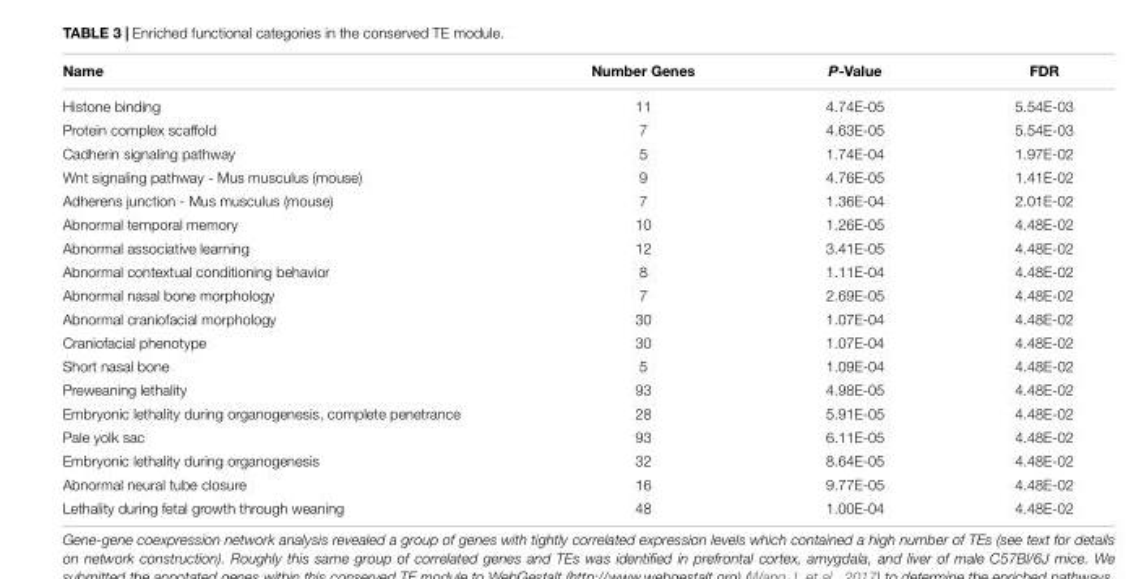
<table><thead><tr><td>Name</td><td>Number Genes</td><td>P-Value</td><td>FDR</td></tr></thead><tbody><tr><td>Histone binding</td><td>11</td><td>4.74E-05</td><td>5.54E-03</td></tr><tr><td>Protein complex scaffold</td><td>7</td><td>4.63E-05</td><td>5.54E-03</td></tr><tr><td>Cadherin signaling pathway</td><td>5</td><td>1.74E-04</td><td>1.97E-02</td></tr><tr><td>Wnt signaling pathway - Mus musculus (mouse)</td><td>9</td><td>4.76E-05</td><td>1.41E-02</td></tr><tr><td>Adherens junction - Mus musculus (mouse)</td><td>7</td><td>1.36E-04</td><td>2.01E-02</td></tr><tr><td>Abnormal temporal memory</td><td>10</td><td>1.26E-05</td><td>4.48E-02</td></tr><tr><td>Abnormal associative learning</td><td>12</td><td>3.41E-05</td><td>4.48E-02</td></tr><tr><td>Abnormal contextual conditioning behavior</td><td>8</td><td>1.11E-04</td><td>4.48E-02</td></tr><tr><td>Abnormal nasal bone morphology</td><td>7</td><td>2.69E-05</td><td>4.48E-02</td></tr><tr><td>Abnormal craniofacial morphology</td><td>30</td><td>1.07E-04</td><td>4.48E-02</td></tr><tr><td>Craniofacial phenotype</td><td>30</td><td>1.07E-04</td><td>4.48E-02</td></tr><tr><td>Short nasal bone</td><td>5</td><td>1.09E-04</td><td>4.48E-02</td></tr><tr><td>Preweaning lethality</td><td>93</td><td>4.98E-05</td><td>4.48E-02</td></tr><tr><td>Embryonic lethality during organogenesis, complete penetrance</td><td>28</td><td>5.91E-05</td><td>4.48E-02</td></tr><tr><td>Pale yolk sac</td><td>93</td><td>6.11E-05</td><td>4.48E-02</td></tr><tr><td>Embryonic lethality during organogenesis</td><td>32</td><td>8.64E-05</td><td>4.48E-02</td></tr><tr><td>Abnormal neural tube closure</td><td>16</td><td>9.77E-05</td><td>4.48E-02</td></tr><tr><td>Lethality during fetal growth through weaning</td><td>48</td><td>1.00E-04</td><td>4.48E-02</td></tr></tbody></table>